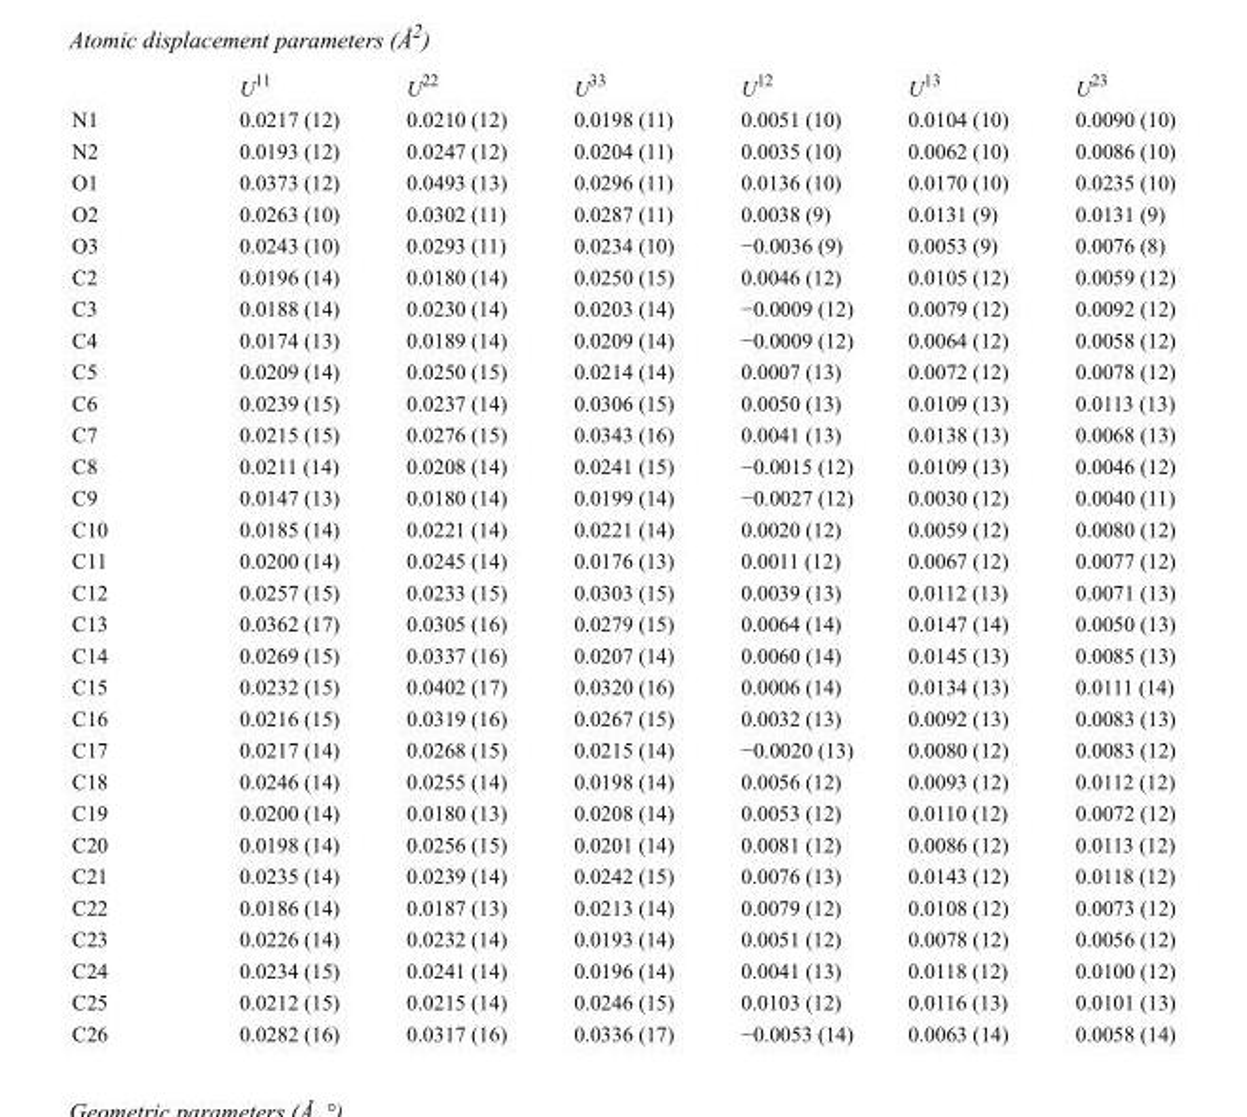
<table><thead><tr><td></td><td>U<sup>11</sup></td><td>U<sup>22</sup></td><td>U<sup>33</sup></td><td>U<sup>12</sup></td><td>U<sup>13</sup></td><td>U<sup>23</sup></td></tr></thead><tbody><tr><td>N1</td><td>0.0217 (12)</td><td>0.0210 (12)</td><td>0.0198 (11)</td><td>0.0051 (10)</td><td>0.0104 (10)</td><td>0.0090 (10)</td></tr><tr><td>N2</td><td>0.0193 (12)</td><td>0.0247 (12)</td><td>0.0204 (11)</td><td>0.0035 (10)</td><td>0.0062 (10)</td><td>0.0086 (10)</td></tr><tr><td>O1</td><td>0.0373 (12)</td><td>0.0493 (13)</td><td>0.0296 (11)</td><td>0.0136 (10)</td><td>0.0170 (10)</td><td>0.0235 (10)</td></tr><tr><td>O2</td><td>0.0263 (10)</td><td>0.0302 (11)</td><td>0.0287 (11)</td><td>0.0038 (9)</td><td>0.0131 (9)</td><td>0.0131 (9)</td></tr><tr><td>O3</td><td>0.0243 (10)</td><td>0.0293 (11)</td><td>0.0234 (10)</td><td>−0.0036 (9)</td><td>0.0053 (9)</td><td>0.0076 (8)</td></tr><tr><td>C2</td><td>0.0196 (14)</td><td>0.0180 (14)</td><td>0.0250 (15)</td><td>0.0046 (12)</td><td>0.0105 (12)</td><td>0.0059 (12)</td></tr><tr><td>C3</td><td>0.0188 (14)</td><td>0.0230 (14)</td><td>0.0203 (14)</td><td>−0.0009 (12)</td><td>0.0079 (12)</td><td>0.0092 (12)</td></tr><tr><td>C4</td><td>0.0174 (13)</td><td>0.0189 (14)</td><td>0.0209 (14)</td><td>−0.0009 (12)</td><td>0.0064 (12)</td><td>0.0058 (12)</td></tr><tr><td>C5</td><td>0.0209 (14)</td><td>0.0250 (15)</td><td>0.0214 (14)</td><td>0.0007 (13)</td><td>0.0072 (12)</td><td>0.0078 (12)</td></tr><tr><td>C6</td><td>0.0239 (15)</td><td>0.0237 (14)</td><td>0.0306 (15)</td><td>0.0050 (13)</td><td>0.0109 (13)</td><td>0.0113 (13)</td></tr><tr><td>C7</td><td>0.0215 (15)</td><td>0.0276 (15)</td><td>0.0343 (16)</td><td>0.0041 (13)</td><td>0.0138 (13)</td><td>0.0068 (13)</td></tr><tr><td>C8</td><td>0.0211 (14)</td><td>0.0208 (14)</td><td>0.0241 (15)</td><td>−0.0015 (12)</td><td>0.0109 (13)</td><td>0.0046 (12)</td></tr><tr><td>C9</td><td>0.0147 (13)</td><td>0.0180 (14)</td><td>0.0199 (14)</td><td>−0.0027 (12)</td><td>0.0030 (12)</td><td>0.0040 (11)</td></tr><tr><td>C10</td><td>0.0185 (14)</td><td>0.0221 (14)</td><td>0.0221 (14)</td><td>0.0020 (12)</td><td>0.0059 (12)</td><td>0.0080 (12)</td></tr><tr><td>C11</td><td>0.0200 (14)</td><td>0.0245 (14)</td><td>0.0176 (13)</td><td>0.0011 (12)</td><td>0.0067 (12)</td><td>0.0077 (12)</td></tr><tr><td>C12</td><td>0.0257 (15)</td><td>0.0233 (15)</td><td>0.0303 (15)</td><td>0.0039 (13)</td><td>0.0112 (13)</td><td>0.0071 (13)</td></tr><tr><td>C13</td><td>0.0362 (17)</td><td>0.0305 (16)</td><td>0.0279 (15)</td><td>0.0064 (14)</td><td>0.0147 (14)</td><td>0.0050 (13)</td></tr><tr><td>C14</td><td>0.0269 (15)</td><td>0.0337 (16)</td><td>0.0207 (14)</td><td>0.0060 (14)</td><td>0.0145 (13)</td><td>0.0085 (13)</td></tr><tr><td>C15</td><td>0.0232 (15)</td><td>0.0402 (17)</td><td>0.0320 (16)</td><td>0.0006 (14)</td><td>0.0134 (13)</td><td>0.0111 (14)</td></tr><tr><td>C16</td><td>0.0216 (15)</td><td>0.0319 (16)</td><td>0.0267 (15)</td><td>0.0032 (13)</td><td>0.0092 (13)</td><td>0.0083 (13)</td></tr><tr><td>C17</td><td>0.0217 (14)</td><td>0.0268 (15)</td><td>0.0215 (14)</td><td>−0.0020 (13)</td><td>0.0080 (12)</td><td>0.0083 (12)</td></tr><tr><td>C18</td><td>0.0246 (14)</td><td>0.0255 (14)</td><td>0.0198 (14)</td><td>0.0056 (12)</td><td>0.0093 (12)</td><td>0.0112 (12)</td></tr><tr><td>C19</td><td>0.0200 (14)</td><td>0.0180 (13)</td><td>0.0208 (14)</td><td>0.0053 (12)</td><td>0.0110 (12)</td><td>0.0072 (12)</td></tr><tr><td>C20</td><td>0.0198 (14)</td><td>0.0256 (15)</td><td>0.0201 (14)</td><td>0.0081 (12)</td><td>0.0086 (12)</td><td>0.0113 (12)</td></tr><tr><td>C21</td><td>0.0235 (14)</td><td>0.0239 (14)</td><td>0.0242 (15)</td><td>0.0076 (13)</td><td>0.0143 (12)</td><td>0.0118 (12)</td></tr><tr><td>C22</td><td>0.0186 (14)</td><td>0.0187 (13)</td><td>0.0213 (14)</td><td>0.0079 (12)</td><td>0.0108 (12)</td><td>0.0073 (12)</td></tr><tr><td>C23</td><td>0.0226 (14)</td><td>0.0232 (14)</td><td>0.0193 (14)</td><td>0.0051 (12)</td><td>0.0078 (12)</td><td>0.0056 (12)</td></tr><tr><td>C24</td><td>0.0234 (15)</td><td>0.0241 (14)</td><td>0.0196 (14)</td><td>0.0041 (13)</td><td>0.0118 (12)</td><td>0.0100 (12)</td></tr><tr><td>C25</td><td>0.0212 (15)</td><td>0.0215 (14)</td><td>0.0246 (15)</td><td>0.0103 (12)</td><td>0.0116 (13)</td><td>0.0101 (13)</td></tr><tr><td>C26</td><td>0.0282 (16)</td><td>0.0317 (16)</td><td>0.0336 (17)</td><td>−0.0053 (14)</td><td>0.0063 (14)</td><td>0.0058 (14)</td></tr></tbody></table>